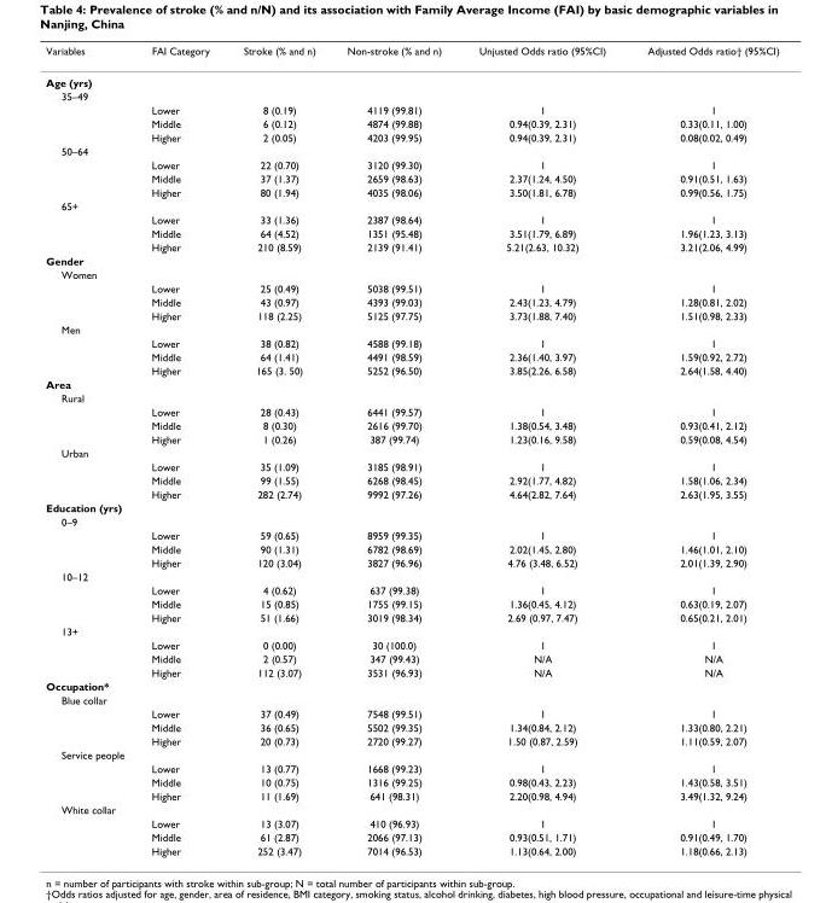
<table><thead><tr><td>Variables</td><td>FAI Category</td><td>Stroke (% and n)</td><td>Non-stroke (% and n)</td><td>Unjusted Odds ratio (95%CI)</td><td>Adjusted Odds ratio† (95%CI)</td></tr></thead><tbody><tr><td colspan="6">Age (yrs)</td></tr><tr><td colspan="6">35–49</td></tr><tr><td></td><td>Lower</td><td>8 (0.19)</td><td>4119 (99.81)</td><td>1</td><td>1</td></tr><tr><td></td><td>Middle</td><td>6 (0.12)</td><td>4874 (99.88)</td><td>0.94(0.39, 2.31)</td><td>0.33(0.11, 1.00)</td></tr><tr><td></td><td>Higher</td><td>2 (0.05)</td><td>4203 (99.95)</td><td>0.94(0.39, 2.31)</td><td>0.08(0.02, 0.49)</td></tr><tr><td colspan="6">50–64</td></tr><tr><td></td><td>Lower</td><td>22 (0.70)</td><td>3120 (99.30)</td><td>1</td><td>1</td></tr><tr><td></td><td>Middle</td><td>37 (1.37)</td><td>2659 (98.63)</td><td>2.37(1.24, 4.50)</td><td>0.91(0.51, 1.63)</td></tr><tr><td></td><td>Higher</td><td>80 (1.94)</td><td>4035 (98.06)</td><td>3.50(1.81, 6.78)</td><td>0.99(0.56, 1.75)</td></tr><tr><td colspan="6">65+</td></tr><tr><td></td><td>Lower</td><td>33 (1.36)</td><td>2387 (98.64)</td><td>1</td><td>1</td></tr><tr><td></td><td>Middle</td><td>64 (4.52)</td><td>1351 (95.48)</td><td>3.51(1.79, 6.89)</td><td>1.96(1.23, 3.13)</td></tr><tr><td></td><td>Higher</td><td>210 (8.59)</td><td>2139 (91.41)</td><td>5.21(2.63, 10.32)</td><td>3.21(2.06, 4.99)</td></tr><tr><td colspan="6">Gender</td></tr><tr><td colspan="6">Women</td></tr><tr><td></td><td>Lower</td><td>25 (0.49)</td><td>5038 (99.51)</td><td>1</td><td>1</td></tr><tr><td></td><td>Middle</td><td>43 (0.97)</td><td>4393 (99.03)</td><td>2.43(1.23, 4.79)</td><td>1.28(0.81, 2.02)</td></tr><tr><td></td><td>Higher</td><td>118 (2.25)</td><td>5125 (97.75)</td><td>3.73(1.88, 7.40)</td><td>1.51(0.98, 2.33)</td></tr><tr><td colspan="6">Men</td></tr><tr><td></td><td>Lower</td><td>38 (0.82)</td><td>4588 (99.18)</td><td>1</td><td>1</td></tr><tr><td></td><td>Middle</td><td>64 (1.41)</td><td>4491 (98.59)</td><td>2.36(1.40, 3.97)</td><td>1.59(0.92, 2.72)</td></tr><tr><td></td><td>Higher</td><td>165 (3. 50)</td><td>5252 (96.50)</td><td>3.85(2.26, 6.58)</td><td>2.64(1.58, 4.40)</td></tr><tr><td colspan="6">Area</td></tr><tr><td colspan="6">Rural</td></tr><tr><td></td><td>Lower</td><td>28 (0.43)</td><td>6441 (99.57)</td><td>1</td><td>1</td></tr><tr><td></td><td>Middle</td><td>8 (0.30)</td><td>2616 (99.70)</td><td>1.38(0.54, 3.48)</td><td>0.93(0.41, 2.12)</td></tr><tr><td></td><td>Higher</td><td>1 (0.26)</td><td>387 (99.74)</td><td>1.23(0.16, 9.58)</td><td>0.59(0.08, 4.54)</td></tr><tr><td colspan="6">Urban</td></tr><tr><td></td><td>Lower</td><td>35 (1.09)</td><td>3185 (98.91)</td><td>1</td><td>1</td></tr><tr><td></td><td>Middle</td><td>99 (1.55)</td><td>6268 (98.45)</td><td>2.92(1.77, 4.82)</td><td>1.58(1.06, 2.34)</td></tr><tr><td></td><td>Higher</td><td>282 (2.74)</td><td>9992 (97.26)</td><td>4.64(2.82, 7.64)</td><td>2.63(1.95, 3.55)</td></tr><tr><td colspan="6">Education (yrs)</td></tr><tr><td colspan="6">0–9</td></tr><tr><td></td><td>Lower</td><td>59 (0.65)</td><td>8959 (99.35)</td><td>1</td><td>1</td></tr><tr><td></td><td>Middle</td><td>90 (1.31)</td><td>6782 (98.69)</td><td>2.02(1.45, 2.80)</td><td>1.46(1.01, 2.10)</td></tr><tr><td></td><td>Higher</td><td>120 (3.04)</td><td>3827 (96.96)</td><td>4.76 (3.48, 6.52)</td><td>2.01(1.39, 2.90)</td></tr><tr><td colspan="6">10–12</td></tr><tr><td></td><td>Lower</td><td>4 (0.62)</td><td>637 (99.38)</td><td>1</td><td>1</td></tr><tr><td></td><td>Middle</td><td>15 (0.85)</td><td>1755 (99.15)</td><td>1.36(0.45, 4.12)</td><td>0.63(0.19, 2.07)</td></tr><tr><td></td><td>Higher</td><td>51 (1.66)</td><td>3019 (98.34)</td><td>2.69 (0.97, 7.47)</td><td>0.65(0.21, 2.01)</td></tr><tr><td colspan="6">13+</td></tr><tr><td></td><td>Lower</td><td>0 (0.00)</td><td>30 (100.0)</td><td>1</td><td>1</td></tr><tr><td></td><td>Middle</td><td>2 (0.57)</td><td>347 (99.43)</td><td>N/A</td><td>N/A</td></tr><tr><td></td><td>Higher</td><td>112 (3.07)</td><td>3531 (96.93)</td><td>N/A</td><td>N/A</td></tr><tr><td colspan="6">Occupation*</td></tr><tr><td colspan="6">Blue collar</td></tr><tr><td></td><td>Lower</td><td>37 (0.49)</td><td>7548 (99.51)</td><td>1</td><td>1</td></tr><tr><td></td><td>Middle</td><td>36 (0.65)</td><td>5502 (99.35)</td><td>1.34(0.84, 2.12)</td><td>1.33(0.80, 2.21)</td></tr><tr><td></td><td>Higher</td><td>20 (0.73)</td><td>2720 (99.27)</td><td>1.50 (0.87, 2.59)</td><td>1.11(0.59, 2.07)</td></tr><tr><td colspan="6">Service people</td></tr><tr><td></td><td>Lower</td><td>13 (0.77)</td><td>1668 (99.23)</td><td>1</td><td>1</td></tr><tr><td></td><td>Middle</td><td>10 (0.75)</td><td>1316 (99.25)</td><td>0.98(0.43, 2.23)</td><td>1.43(0.58, 3.51)</td></tr><tr><td></td><td>Higher</td><td>11 (1.69)</td><td>641 (98.31)</td><td>2.20(0.98, 4.94)</td><td>3.49(1.32, 9.24)</td></tr><tr><td colspan="6">White collar</td></tr><tr><td></td><td>Lower</td><td>13 (3.07)</td><td>410 (96.93)</td><td>1</td><td>1</td></tr><tr><td></td><td>Middle</td><td>61 (2.87)</td><td>2066 (97.13)</td><td>0.93(0.51, 1.71)</td><td>0.91(0.49, 1.70)</td></tr><tr><td></td><td>Higher</td><td>252 (3.47)</td><td>7014 (96.53)</td><td>1.13(0.64, 2.00)</td><td>1.18(0.66, 2.13)</td></tr></tbody></table>